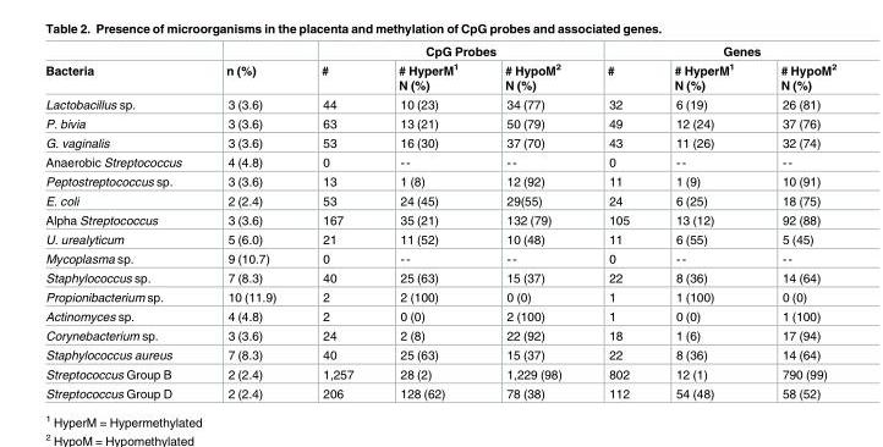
<table><thead><tr><td rowspan="2">Bacteria</td><td rowspan="2">n (%)</td><td colspan="3">CpG Probes</td><td colspan="3">Genes</td></tr><tr><td>#</td><td># HyperM<sup>1</sup> N (%)</td><td># HypoM<sup>2</sup> N (%)</td><td>#</td><td># HyperM<sup>1</sup> N (%)</td><td># HypoM<sup>2</sup> N (%)</td></tr></thead><tbody><tr><td>Lactobacillus sp.</td><td>3 (3.6)</td><td>44</td><td>10 (23)</td><td>34 (77)</td><td>32</td><td>6 (19)</td><td>26 (81)</td></tr><tr><td>P. bivia</td><td>3 (3.6)</td><td>63</td><td>13 (21)</td><td>50 (79)</td><td>49</td><td>12 (24)</td><td>37 (76)</td></tr><tr><td>G. vaginalis</td><td>3 (3.6)</td><td>53</td><td>16 (30)</td><td>37 (70)</td><td>43</td><td>11 (26)</td><td>32 (74)</td></tr><tr><td>Anaerobic Streptococcus</td><td>4 (4.8)</td><td>0</td><td>--</td><td>--</td><td>0</td><td>--</td><td>--</td></tr><tr><td>Peptostreptococcus sp.</td><td>3 (3.6)</td><td>13</td><td>1 (8)</td><td>12 (92)</td><td>11</td><td>1 (9)</td><td>10 (91)</td></tr><tr><td>E. coli</td><td>2 (2.4)</td><td>53</td><td>24 (45)</td><td>29(55)</td><td>24</td><td>6 (25)</td><td>18 (75)</td></tr><tr><td>Alpha Streptococcus</td><td>3 (3.6)</td><td>167</td><td>35 (21)</td><td>132 (79)</td><td>105</td><td>13 (12)</td><td>92 (88)</td></tr><tr><td>U. urealyticum</td><td>5 (6.0)</td><td>21</td><td>11 (52)</td><td>10 (48)</td><td>11</td><td>6 (55)</td><td>5 (45)</td></tr><tr><td>Mycoplasma sp.</td><td>9 (10.7)</td><td>0</td><td>--</td><td>--</td><td>0</td><td>--</td><td>--</td></tr><tr><td>Staphylococcus sp.</td><td>7 (8.3)</td><td>40</td><td>25 (63)</td><td>15 (37)</td><td>22</td><td>8 (36)</td><td>14 (64)</td></tr><tr><td>Propionibacterium sp.</td><td>10 (11.9)</td><td>2</td><td>2 (100)</td><td>0 (0)</td><td>1</td><td>1 (100)</td><td>0 (0)</td></tr><tr><td>Actinomyces sp.</td><td>4 (4.8)</td><td>2</td><td>0 (0)</td><td>2 (100)</td><td>1</td><td>0 (0)</td><td>1 (100)</td></tr><tr><td>Corynebacterium sp.</td><td>3 (3.6)</td><td>24</td><td>2 (8)</td><td>22 (92)</td><td>18</td><td>1 (6)</td><td>17 (94)</td></tr><tr><td>Staphylococcus aureus</td><td>7 (8.3)</td><td>40</td><td>25 (63)</td><td>15 (37)</td><td>22</td><td>8 (36)</td><td>14 (64)</td></tr><tr><td>Streptococcus Group B</td><td>2 (2.4)</td><td>1,257</td><td>28 (2)</td><td>1,229 (98)</td><td>802</td><td>12 (1)</td><td>790 (99)</td></tr><tr><td>Streptococcus Group D</td><td>2 (2.4)</td><td>206</td><td>128 (62)</td><td>78 (38)</td><td>112</td><td>54 (48)</td><td>58 (52)</td></tr></tbody></table>